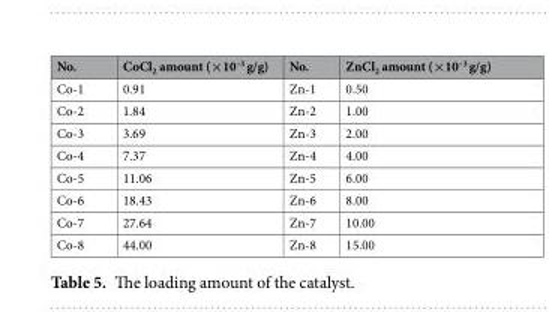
<table><thead><tr><td>No.</td><td>CoCl<sub>2</sub> amount (×10<sup>–3</sup> g/g)</td><td>No.</td><td>ZnCl<sub>2</sub> amount (×10<sup>–3</sup> g/g)</td></tr></thead><tbody><tr><td>Co-1</td><td>0.91</td><td>Zn-1</td><td>0.50</td></tr><tr><td>Co-2</td><td>1.84</td><td>Zn-2</td><td>1.00</td></tr><tr><td>Co-3</td><td>3.69</td><td>Zn-3</td><td>2.00</td></tr><tr><td>Co-4</td><td>7.37</td><td>Zn-4</td><td>4.00</td></tr><tr><td>Co-5</td><td>11.06</td><td>Zn-5</td><td>6.00</td></tr><tr><td>Co-6</td><td>18.43</td><td>Zn-6</td><td>8.00</td></tr><tr><td>Co-7</td><td>27.64</td><td>Zn-7</td><td>10.00</td></tr><tr><td>Co-8</td><td>44.00</td><td>Zn-8</td><td>15.00</td></tr></tbody></table>